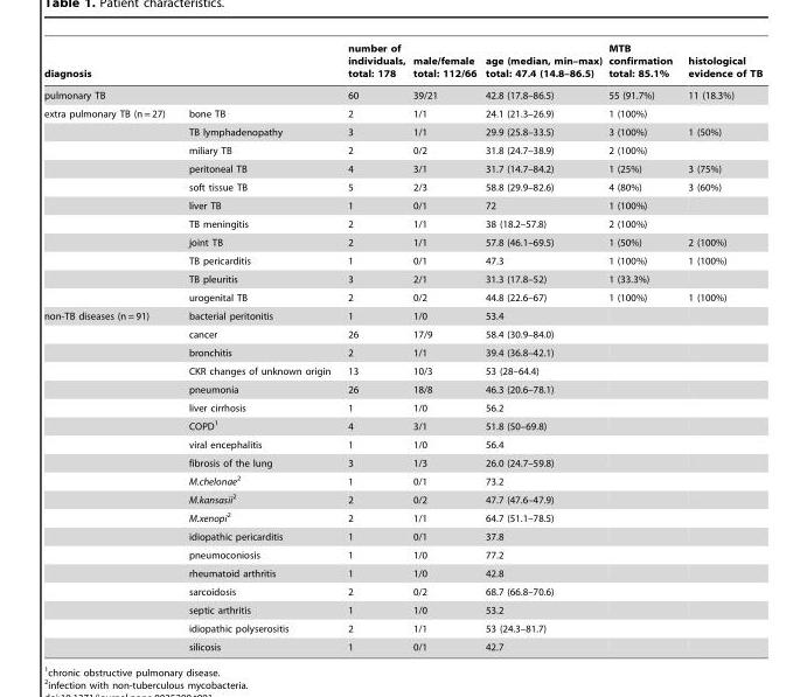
<table><thead><tr><td rowspan="2" colspan="2">diagnosis pulmonary TB</td><td rowspan="3">number of individuals, total: 178 60 2</td><td rowspan="3">male/female total: 112/66 39/21 1/1</td><td rowspan="3">age (median, min–max) total: 47.4 (14.8–86.5) 42.8 (17.8–86.5) 24.1 (21.3–26.9)</td><td rowspan="3">MTB confirmation total: 85.1% 55 (91.7%) 1 (100%)</td><td rowspan="3">histological evidence of TB 11 (18.3%)</td></tr><tr></tr><tr><td>extra pulmonary TB (n = 27)</td><td>bone TB</td></tr></thead><tbody><tr><td></td><td>TB lymphadenopathy</td><td>3</td><td>1/1</td><td>29.9 (25.8–33.5)</td><td>3 (100%)</td><td>1 (50%)</td></tr><tr><td></td><td>miliary TB</td><td>2</td><td>0/2</td><td>31.8 (24.7–38.9)</td><td>2 (100%)</td><td></td></tr><tr><td></td><td>peritoneal TB</td><td>4</td><td>3/1</td><td>31.7 (14.7–84.2)</td><td>1 (25%)</td><td>3 (75%)</td></tr><tr><td></td><td>soft tissue TB</td><td>5</td><td>2/3</td><td>58.8 (29.9–82.6)</td><td>4 (80%)</td><td>3 (60%)</td></tr><tr><td></td><td>liver TB</td><td>1</td><td>0/1</td><td>72</td><td>1 (100%)</td><td></td></tr><tr><td></td><td>TB meningitis</td><td>2</td><td>1/1</td><td>38 (18.2–57.8)</td><td>2 (100%)</td><td></td></tr><tr><td></td><td>joint TB</td><td>2</td><td>1/1</td><td>57.8 (46.1–69.5)</td><td>1 (50%)</td><td>2 (100%)</td></tr><tr><td></td><td>TB pericarditis</td><td>1</td><td>0/1</td><td>47.3</td><td>1 (100%)</td><td>1 (100%)</td></tr><tr><td></td><td>TB pleuritis</td><td>3</td><td>2/1</td><td>31.3 (17.8–52)</td><td>1 (33.3%)</td><td></td></tr><tr><td></td><td>urogenital TB</td><td>2</td><td>0/2</td><td>44.8 (22.6–67)</td><td>1 (100%)</td><td>1 (100%)</td></tr><tr><td rowspan="19">non-TB diseases (n = 91)</td><td>bacterial peritonitis</td><td>1</td><td>1/0</td><td>53.4</td><td></td><td></td></tr><tr><td>cancer</td><td>26</td><td>17/9</td><td>58.4 (30.9–84.0)</td><td></td><td></td></tr><tr><td>bronchitis</td><td>2</td><td>1/1</td><td>39.4 (36.8–42.1)</td><td></td><td></td></tr><tr><td>CKR changes of unknown origin</td><td>13</td><td>10/3</td><td>53 (28–64.4)</td><td></td><td></td></tr><tr><td>pneumonia</td><td>26</td><td>18/8</td><td>46.3 (20.6–78.1)</td><td></td><td></td></tr><tr><td>liver cirrhosis</td><td>1</td><td>1/0</td><td>56.2</td><td></td><td></td></tr><tr><td>COPD<sup>1</sup></td><td>4</td><td>3/1</td><td>51.8 (50–69.8)</td><td></td><td></td></tr><tr><td>viral encephalitis</td><td>1</td><td>1/0</td><td>56.4</td><td></td><td></td></tr><tr><td>fibrosis of the lung</td><td>3</td><td>1/3</td><td>26.0 (24.7–59.8)</td><td></td><td></td></tr><tr><td>M.chelonae2</td><td>1</td><td>0/1</td><td>73.2</td><td></td><td></td></tr><tr><td>M.kansasii2</td><td>2</td><td>0/2</td><td>47.7 (47.6–47.9)</td><td></td><td></td></tr><tr><td>M.xenopi2</td><td>2</td><td>1/1</td><td>64.7 (51.1–78.5)</td><td></td><td></td></tr><tr><td>idiopathic pericarditis</td><td>1</td><td>0/1</td><td>37.8</td><td></td><td></td></tr><tr><td>pneumoconiosis</td><td>1</td><td>1/0</td><td>77.2</td><td></td><td></td></tr><tr><td>rheumatoid arthritis</td><td>1</td><td>1/0</td><td>42.8</td><td></td><td></td></tr><tr><td>sarcoidosis</td><td>2</td><td>0/2</td><td>68.7 (66.8–70.6)</td><td></td><td></td></tr><tr><td>septic arthritis</td><td>1</td><td>1/0</td><td>53.2</td><td></td><td></td></tr><tr><td>idiopathic polyserositis</td><td>2</td><td>1/1</td><td>53 (24.3–81.7)</td><td></td><td></td></tr><tr><td>silicosis</td><td>1</td><td>0/1</td><td>42.7</td><td></td><td></td></tr></tbody></table>